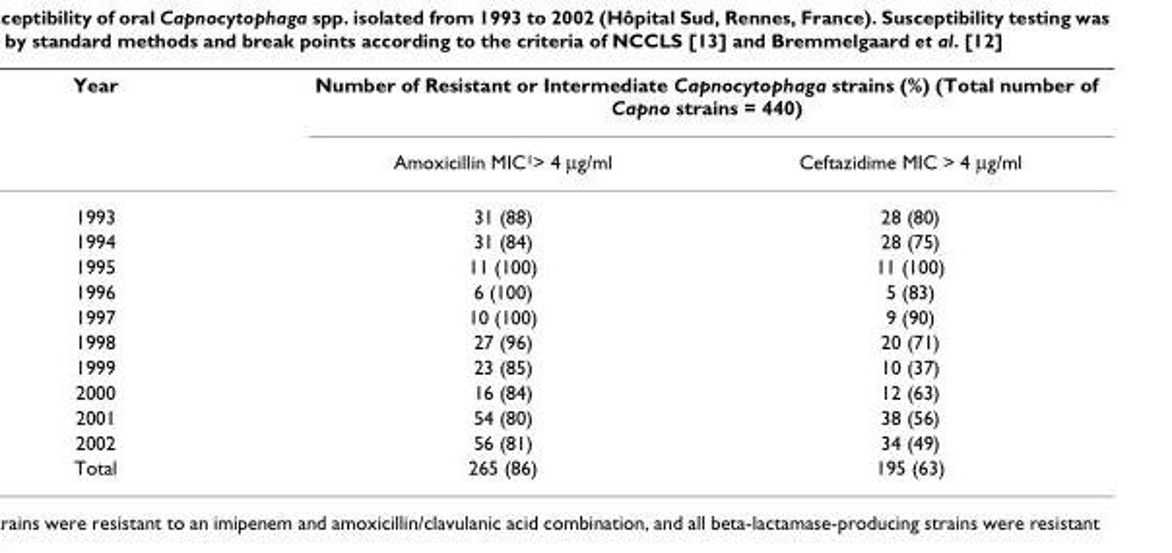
<table><thead><tr><td rowspan="2">Year</td><td colspan="2">Number of Resistant or Intermediate Capnocytophaga strains (%) (Total number of Capno strains = 440)</td></tr><tr><td>Amoxicillin MIC<sup>1</sup>&gt; 4 µg/ml</td><td>Ceftazidime MIC &gt; 4 µg/ml</td></tr></thead><tbody><tr><td>1993</td><td>31 (88)</td><td>28 (80)</td></tr><tr><td>1994</td><td>31 (84)</td><td>28 (75)</td></tr><tr><td>1995</td><td>11 (100)</td><td>11 (100)</td></tr><tr><td>1996</td><td>6 (100)</td><td>5 (83)</td></tr><tr><td>1997</td><td>10 (100)</td><td>9 (90)</td></tr><tr><td>1998</td><td>27 (96)</td><td>20 (71)</td></tr><tr><td>1999</td><td>23 (85)</td><td>10 (37)</td></tr><tr><td>2000</td><td>16 (84)</td><td>12 (63)</td></tr><tr><td>2001</td><td>54 (80)</td><td>38 (56)</td></tr><tr><td>2002</td><td>56 (81)</td><td>34 (49)</td></tr><tr><td>Total</td><td>265 (86)</td><td>195 (63)</td></tr></tbody></table>